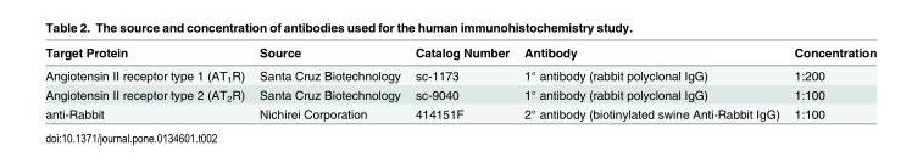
<table><thead><tr><td>Target Protein</td><td>Source</td><td>Catalog Number</td><td>Antibody</td><td>Concentration</td></tr></thead><tbody><tr><td>Angiotensin II receptor type 1 (AT<sub>1</sub>R)</td><td>Santa Cruz Biotechnology</td><td>sc-1173</td><td>1° antibody (rabbit polyclonal IgG)</td><td>1:200</td></tr><tr><td>Angiotensin II receptor type 2 (AT<sub>2</sub>R)</td><td>Santa Cruz Biotechnology</td><td>sc-9040</td><td>1° antibody (rabbit polyclonal IgG)</td><td>1:100</td></tr><tr><td>anti-Rabbit</td><td>Nichirei Corporation</td><td>414151F</td><td>2° antibody (biotinylated swine Anti-Rabbit IgG)</td><td>1:100</td></tr></tbody></table>